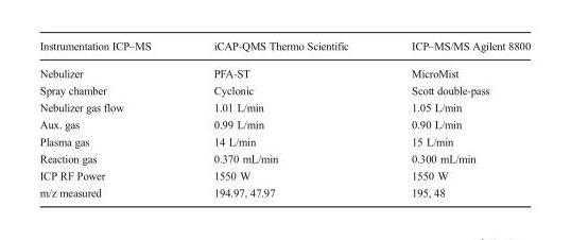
<table><thead><tr><td>Instrumentation ICP–MS</td><td>iCAP-QMS Thermo Scientific</td><td>ICP–MS/MS Agilent 8800</td></tr></thead><tbody><tr><td>Nebulizer</td><td>PFA-ST</td><td>MicroMist</td></tr><tr><td>Spray chamber</td><td>Cyclonic</td><td>Scott double-pass</td></tr><tr><td>Nebulizer gas flow</td><td>1.01 L/min</td><td>1.05 L/min</td></tr><tr><td>Aux. gas</td><td>0.99 L/min</td><td>0.90 L/min</td></tr><tr><td>Plasma gas</td><td>14 L/min</td><td>15 L/min</td></tr><tr><td>Reaction gas</td><td>0.370 mL/min</td><td>0.300 mL/min</td></tr><tr><td>ICP RF Power</td><td>1550 W</td><td>1550 W</td></tr><tr><td>m/z measured</td><td>194.97, 47.97</td><td>195, 48</td></tr></tbody></table>